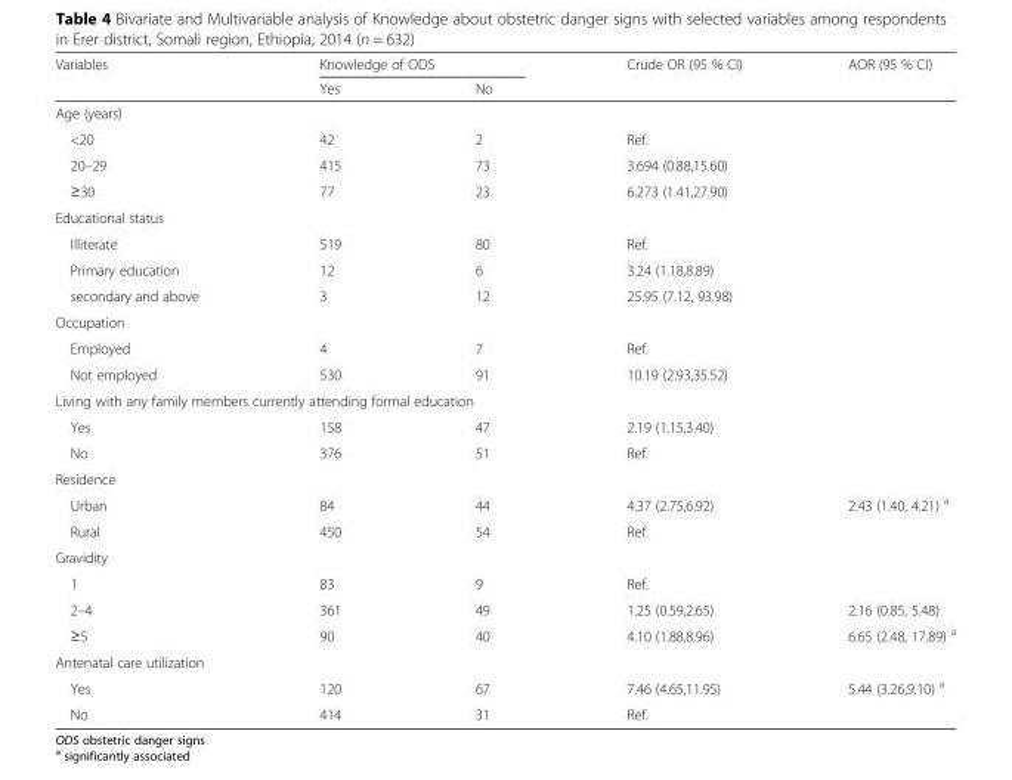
<table><thead><tr><td rowspan="2">Variables</td><td colspan="2">Knowledge of ODS</td><td rowspan="2">Crude OR (95 % CI)</td><td rowspan="2">AOR (95 % CI)</td></tr><tr><td>Yes</td><td>No</td></tr></thead><tbody><tr><td colspan="5">Age (years)</td></tr><tr><td>&lt;20</td><td>42</td><td>2</td><td>Ref.</td><td></td></tr><tr><td>20–29</td><td>415</td><td>73</td><td>3.694 (0.88,15.60)</td><td></td></tr><tr><td>≥30</td><td>77</td><td>23</td><td>6.273 (1.41,27.90)</td><td></td></tr><tr><td colspan="5">Educational status</td></tr><tr><td>Illiterate</td><td>519</td><td>80</td><td>Ref.</td><td></td></tr><tr><td>Primary education</td><td>12</td><td>6</td><td>3.24 (1.18,8.89)</td><td></td></tr><tr><td>secondary and above</td><td>3</td><td>12</td><td>25.95 (7.12, 93.98)</td><td></td></tr><tr><td colspan="5">Occupation</td></tr><tr><td>Employed</td><td>4</td><td>7</td><td>Ref.</td><td></td></tr><tr><td>Not employed</td><td>530</td><td>91</td><td>10.19 (2.93,35.52)</td><td></td></tr><tr><td colspan="5">Living with any family members currently attending formal education</td></tr><tr><td>Yes</td><td>158</td><td>47</td><td>2.19 (1.15,3.40)</td><td></td></tr><tr><td>No</td><td>376</td><td>51</td><td>Ref.</td><td></td></tr><tr><td colspan="5">Residence</td></tr><tr><td>Urban</td><td>84</td><td>44</td><td>4.37 (2.75,6.92)</td><td>2.43 (1.40, 4.21) <sup>a</sup></td></tr><tr><td>Rural</td><td>450</td><td>54</td><td>Ref.</td><td></td></tr><tr><td colspan="5">Gravidity</td></tr><tr><td>1</td><td>83</td><td>9</td><td>Ref.</td><td></td></tr><tr><td>2–4</td><td>361</td><td>49</td><td>1.25 (0.59,2.65)</td><td>2.16 (0.85, 5.48)</td></tr><tr><td>≥5</td><td>90</td><td>40</td><td>4.10 (1.88,8.96)</td><td>6.65 (2.48, 17.89) <sup>a</sup></td></tr><tr><td colspan="5">Antenatal care utilization</td></tr><tr><td>Yes</td><td>120</td><td>67</td><td>7.46 (4.65,11.95)</td><td>5.44 (3.26,9.10) <sup>a</sup></td></tr><tr><td>No</td><td>414</td><td>31</td><td>Ref.</td><td></td></tr></tbody></table>